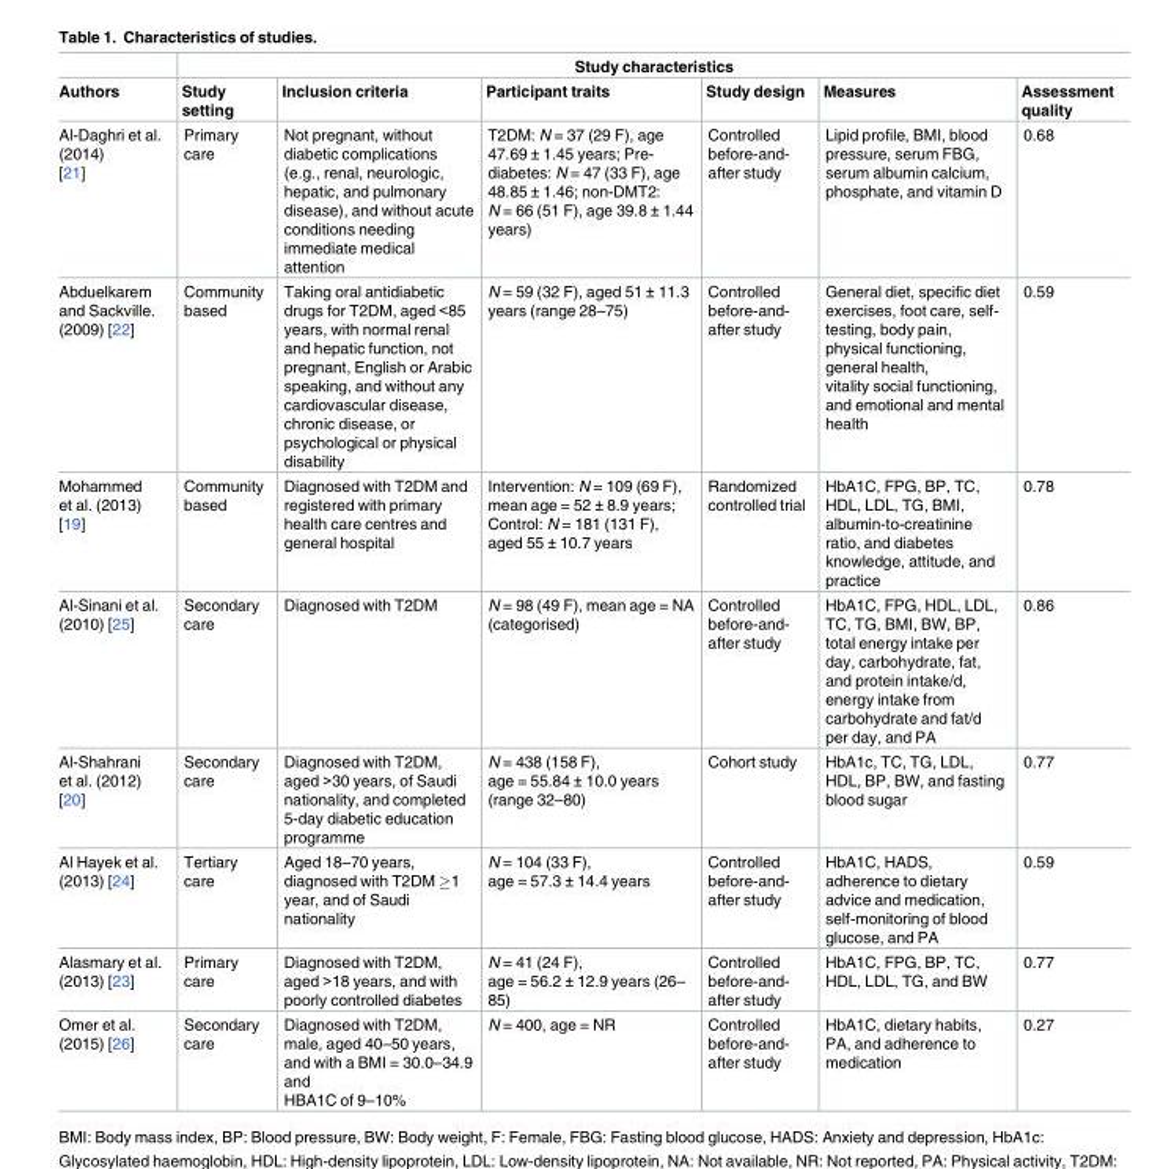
<table><thead><tr><td rowspan="2">Authors</td><td rowspan="2">Study setting</td><td rowspan="2">Inclusion criteria</td><td colspan="2">Study characteristics</td><td rowspan="2">Measures</td><td rowspan="2">Assessment quality</td></tr><tr><td>Participant traits</td><td>Study design</td></tr></thead><tbody><tr><td>Al-Daghri et al. (2014) [21]</td><td>Primary care</td><td>Not pregnant, without diabetic complications (e.g., renal, neurologic, hepatic, and pulmonary disease), and without acute conditions needing immediate medical attention</td><td>T2DM: N = 37 (29 F), age 47.69 ± 1.45 years; Pre- diabetes: N = 47 (33 F), age 48.85 ± 1.46; non-DMT2: N = 66 (51 F), age 39.8 ± 1.44 years)</td><td>Controlled before-and- after study</td><td>Lipid profile, BMI, blood pressure, serum FBG, serum albumin calcium, phosphate, and vitamin D</td><td>0.68</td></tr><tr><td>Abduelkarem and Sackville. (2009) [22]</td><td>Community based</td><td>Taking oral antidiabetic drugs for T2DM, aged &lt;85 years, with normal renal and hepatic function, not pregnant, English or Arabic speaking, and without any cardiovascular disease, chronic disease, or psychological or physical disability</td><td>N = 59 (32 F), aged 51 ± 11.3 years (range 28–75)</td><td>Controlled before-and- after study</td><td>General diet, specific diet exercises, foot care, self- testing, body pain, physical functioning, general health, vitality social functioning, and emotional and mental health</td><td>0.59</td></tr><tr><td>Mohammed et al. (2013) [19]</td><td>Community based</td><td>Diagnosed with T2DM and registered with primary health care centres and general hospital</td><td>Intervention: N = 109 (69 F), mean age = 52 ± 8.9 years; Control: N = 181 (131 F), aged 55 ± 10.7 years</td><td>Randomized controlled trial</td><td>HbA1C, FPG, BP, TC, HDL, LDL, TG, BMI, albumin-to-creatinine ratio, and diabetes knowledge, attitude, and practice</td><td>0.78</td></tr><tr><td>Al-Sinani et al. (2010) [25]</td><td>Secondary care</td><td>Diagnosed with T2DM</td><td>N = 98 (49 F), mean age = NA (categorised)</td><td>Controlled before-and- after study</td><td>HbA1C, FPG, HDL, LDL, TC, TG, BMI, BW, BP, total energy intake per day, carbohydrate, fat, and protein intake/d, energy intake from carbohydrate and fat/d per day, and PA</td><td>0.86</td></tr><tr><td>Al-Shahrani et al. (2012) [20]</td><td>Secondary care</td><td>Diagnosed with T2DM, aged &gt;30 years, of Saudi nationality, and completed 5-day diabetic education programme</td><td>N = 438 (158 F), age = 55.84 ± 10.0 years (range 32–80)</td><td>Cohort study</td><td>HbA1c, TC, TG, LDL, HDL, BP, BW, and fasting blood sugar</td><td>0.77</td></tr><tr><td>Al Hayek et al. (2013) [24]</td><td>Tertiary care</td><td>Aged 18–70 years, diagnosed with T2DM ≥1 year, and of Saudi nationality</td><td>N = 104 (33 F), age = 57.3 ± 14.4 years</td><td>Controlled before-and- after study</td><td>HbA1C, HADS, adherence to dietary advice and medication, self-monitoring of blood glucose, and PA</td><td>0.59</td></tr><tr><td>Alasmary et al. (2013) [23]</td><td>Primary care</td><td>Diagnosed with T2DM, aged &gt;18 years, and with poorly controlled diabetes</td><td>N = 41 (24 F), age = 56.2 ± 12.9 years (26– 85)</td><td>Controlled before-and- after study</td><td>HbA1C, FPG, BP, TC, HDL, LDL, TG, and BW</td><td>0.77</td></tr><tr><td>Omer et al. (2015) [26]</td><td>Secondary care</td><td>Diagnosed with T2DM, male, aged 40–50 years, and with a BMI = 30.0–34.9 and HBA1C of 9–10%</td><td>N = 400, age = NR</td><td>Controlled before-and- after study</td><td>HbA1C, dietary habits, PA, and adherence to medication</td><td>0.27</td></tr></tbody></table>